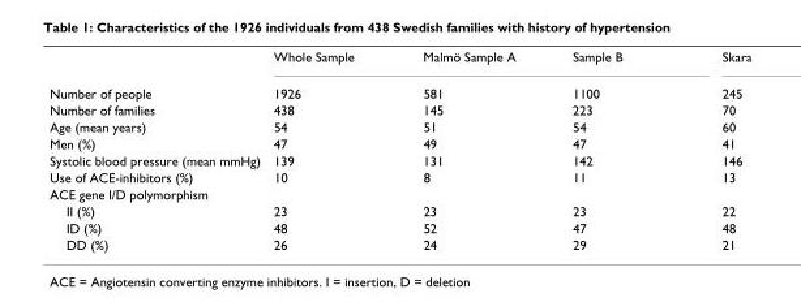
<table><thead><tr><td></td><td>Whole Sample</td><td>Malmö Sample A</td><td>Sample B</td><td>Skara</td></tr></thead><tbody><tr><td>Number of people</td><td>1926</td><td>581</td><td>1100</td><td>245</td></tr><tr><td>Number of families</td><td>438</td><td>145</td><td>223</td><td>70</td></tr><tr><td>Age (mean years)</td><td>54</td><td>51</td><td>54</td><td>60</td></tr><tr><td>Men (%)</td><td>47</td><td>49</td><td>47</td><td>41</td></tr><tr><td>Systolic blood pressure (mean mmHg)</td><td>139</td><td>131</td><td>142</td><td>146</td></tr><tr><td>Use of ACE-inhibitors (%)</td><td>10</td><td>8</td><td>11</td><td>13</td></tr><tr><td colspan="5">ACE gene I/D polymorphism</td></tr><tr><td>II (%)</td><td>23</td><td>23</td><td>23</td><td>22</td></tr><tr><td>ID (%)</td><td>48</td><td>52</td><td>47</td><td>48</td></tr><tr><td>DD (%)</td><td>26</td><td>24</td><td>29</td><td>21</td></tr></tbody></table>